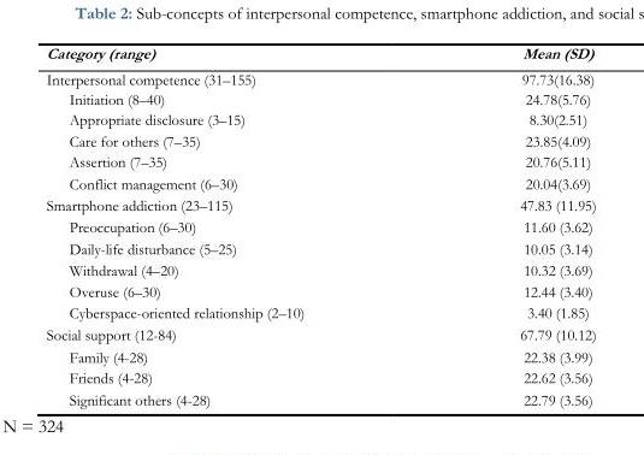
<table><thead><tr><td>Category (range)</td><td>Mean (SD)</td></tr></thead><tbody><tr><td>Interpersonal competence (31–155)</td><td>97.73(16.38)</td></tr><tr><td>Initiation (8–40)</td><td>24.78(5.76)</td></tr><tr><td>Appropriate disclosure (3–15)</td><td>8.30(2.51)</td></tr><tr><td>Care for others (7–35)</td><td>23.85(4.09)</td></tr><tr><td>Assertion (7–35)</td><td>20.76(5.11)</td></tr><tr><td>Conflict management (6–30)</td><td>20.04(3.69)</td></tr><tr><td>Smartphone addiction (23–115)</td><td>47.83 (11.95)</td></tr><tr><td>Preoccupation (6–30)</td><td>11.60 (3.62)</td></tr><tr><td>Daily-life disturbance (5–25)</td><td>10.05 (3.14)</td></tr><tr><td>Withdrawal (4–20)</td><td>10.32 (3.69)</td></tr><tr><td>Overuse (6–30)</td><td>12.44 (3.40)</td></tr><tr><td>Cyberspace-oriented relationship (2–10)</td><td>3.40 (1.85)</td></tr><tr><td>Social support (12-84)</td><td>67.79 (10.12)</td></tr><tr><td>Family (4-28)</td><td>22.38 (3.99)</td></tr><tr><td>Friends (4-28)</td><td>22.62 (3.56)</td></tr><tr><td>Significant others (4-28)</td><td>22.79 (3.56)</td></tr></tbody></table>